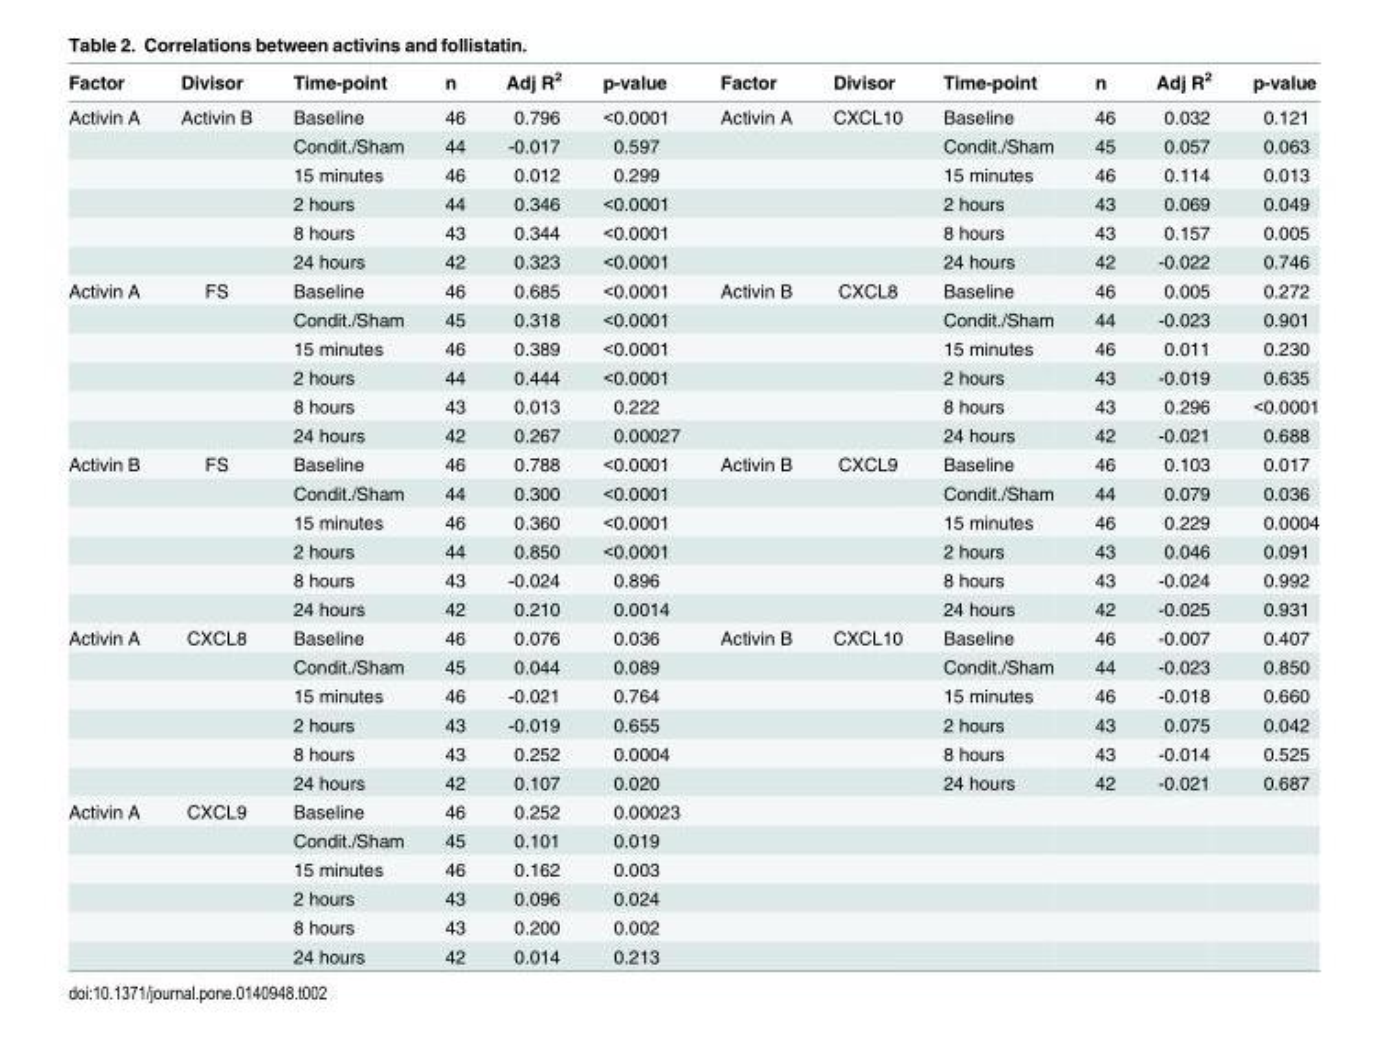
<table><thead><tr><td>Factor</td><td>Divisor</td><td>Time-point</td><td>n</td><td>Adj R<sup>2</sup></td><td>p-value</td><td>Factor</td><td>Divisor</td><td>Time-point</td><td>n</td><td>Adj R<sup>2</sup></td><td>p-value</td></tr></thead><tbody><tr><td rowspan="6">Activin A</td><td>Activin B</td><td>Baseline</td><td>46</td><td>0.796</td><td>&lt;0.0001</td><td>Activin A</td><td>CXCL10</td><td>Baseline</td><td>46</td><td>0.032</td><td>0.121</td></tr><tr><td></td><td>Condit./Sham</td><td>44</td><td>-0.017</td><td>0.597</td><td></td><td></td><td>Condit./Sham</td><td>45</td><td>0.057</td><td>0.063</td></tr><tr><td></td><td>15 minutes</td><td>46</td><td>0.012</td><td>0.299</td><td></td><td></td><td>15 minutes</td><td>46</td><td>0.114</td><td>0.013</td></tr><tr><td></td><td>2 hours</td><td>44</td><td>0.346</td><td>&lt;0.0001</td><td></td><td></td><td>2 hours</td><td>43</td><td>0.069</td><td>0.049</td></tr><tr><td></td><td>8 hours</td><td>43</td><td>0.344</td><td>&lt;0.0001</td><td></td><td></td><td>8 hours</td><td>43</td><td>0.157</td><td>0.005</td></tr><tr><td></td><td>24 hours</td><td>42</td><td>0.323</td><td>&lt;0.0001</td><td></td><td></td><td>24 hours</td><td>42</td><td>-0.022</td><td>0.746</td></tr><tr><td rowspan="6">Activin A</td><td>FS</td><td>Baseline</td><td>46</td><td>0.685</td><td>&lt;0.0001</td><td>Activin B</td><td>CXCL8</td><td>Baseline</td><td>46</td><td>0.005</td><td>0.272</td></tr><tr><td></td><td>Condit./Sham</td><td>45</td><td>0.318</td><td>&lt;0.0001</td><td></td><td></td><td>Condit./Sham</td><td>44</td><td>-0.023</td><td>0.901</td></tr><tr><td></td><td>15 minutes</td><td>46</td><td>0.389</td><td>&lt;0.0001</td><td></td><td></td><td>15 minutes</td><td>46</td><td>0.011</td><td>0.230</td></tr><tr><td></td><td>2 hours</td><td>44</td><td>0.444</td><td>&lt;0.0001</td><td></td><td></td><td>2 hours</td><td>43</td><td>-0.019</td><td>0.635</td></tr><tr><td></td><td>8 hours</td><td>43</td><td>0.013</td><td>0.222</td><td></td><td></td><td>8 hours</td><td>43</td><td>0.296</td><td>&lt;0.0001</td></tr><tr><td></td><td>24 hours</td><td>42</td><td>0.267</td><td>0.00027</td><td></td><td></td><td>24 hours</td><td>42</td><td>-0.021</td><td>0.688</td></tr><tr><td rowspan="6">Activin B</td><td>FS</td><td>Baseline</td><td>46</td><td>0.788</td><td>&lt;0.0001</td><td>Activin B</td><td>CXCL9</td><td>Baseline</td><td>46</td><td>0.103</td><td>0.017</td></tr><tr><td></td><td>Condit./Sham</td><td>44</td><td>0.300</td><td>&lt;0.0001</td><td></td><td></td><td>Condit./Sham</td><td>44</td><td>0.079</td><td>0.036</td></tr><tr><td></td><td>15 minutes</td><td>46</td><td>0.360</td><td>&lt;0.0001</td><td></td><td></td><td>15 minutes</td><td>46</td><td>0.229</td><td>0.0004</td></tr><tr><td></td><td>2 hours</td><td>44</td><td>0.850</td><td>&lt;0.0001</td><td></td><td></td><td>2 hours</td><td>43</td><td>0.046</td><td>0.091</td></tr><tr><td></td><td>8 hours</td><td>43</td><td>-0.024</td><td>0.896</td><td></td><td></td><td>8 hours</td><td>43</td><td>-0.024</td><td>0.992</td></tr><tr><td></td><td>24 hours</td><td>42</td><td>0.210</td><td>0.0014</td><td></td><td></td><td>24 hours</td><td>42</td><td>-0.025</td><td>0.931</td></tr><tr><td rowspan="6">Activin A</td><td>CXCL8</td><td>Baseline</td><td>46</td><td>0.076</td><td>0.036</td><td>Activin B</td><td>CXCL10</td><td>Baseline</td><td>46</td><td>-0.007</td><td>0.407</td></tr><tr><td></td><td>Condit./Sham</td><td>45</td><td>0.044</td><td>0.089</td><td></td><td></td><td>Condit./Sham</td><td>44</td><td>-0.023</td><td>0.850</td></tr><tr><td></td><td>15 minutes</td><td>46</td><td>-0.021</td><td>0.764</td><td></td><td></td><td>15 minutes</td><td>46</td><td>-0.018</td><td>0.660</td></tr><tr><td></td><td>2 hours</td><td>43</td><td>-0.019</td><td>0.655</td><td></td><td></td><td>2 hours</td><td>43</td><td>0.075</td><td>0.042</td></tr><tr><td></td><td>8 hours</td><td>43</td><td>0.252</td><td>0.0004</td><td></td><td></td><td>8 hours</td><td>43</td><td>-0.014</td><td>0.525</td></tr><tr><td></td><td>24 hours</td><td>42</td><td>0.107</td><td>0.020</td><td></td><td></td><td>24 hours</td><td>42</td><td>-0.021</td><td>0.687</td></tr><tr><td rowspan="6">Activin A</td><td>CXCL9</td><td>Baseline</td><td>46</td><td>0.252</td><td>0.00023</td><td></td><td></td><td></td><td></td><td></td><td></td></tr><tr><td></td><td>Condit./Sham</td><td>45</td><td>0.101</td><td>0.019</td><td></td><td></td><td></td><td></td><td></td><td></td></tr><tr><td></td><td>15 minutes</td><td>46</td><td>0.162</td><td>0.003</td><td></td><td></td><td></td><td></td><td></td><td></td></tr><tr><td></td><td>2 hours</td><td>43</td><td>0.096</td><td>0.024</td><td></td><td></td><td></td><td></td><td></td><td></td></tr><tr><td></td><td>8 hours</td><td>43</td><td>0.200</td><td>0.002</td><td></td><td></td><td></td><td></td><td></td><td></td></tr><tr><td></td><td>24 hours</td><td>42</td><td>0.014</td><td>0.213</td><td></td><td></td><td></td><td></td><td></td><td></td></tr></tbody></table>